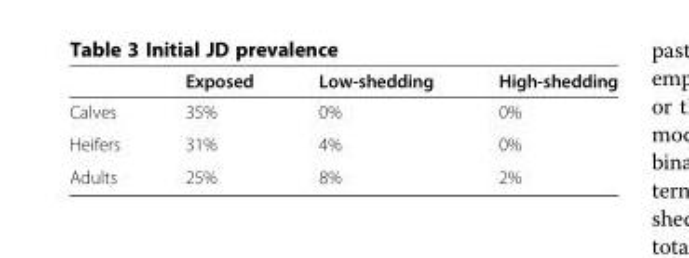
<table><thead><tr><td></td><td>Exposed</td><td>Low-shedding</td><td>High-shedding</td></tr></thead><tbody><tr><td>Calves</td><td>35%</td><td>0%</td><td>0%</td></tr><tr><td>Heifers</td><td>31%</td><td>4%</td><td>0%</td></tr><tr><td>Adults</td><td>25%</td><td>8%</td><td>2%</td></tr></tbody></table>